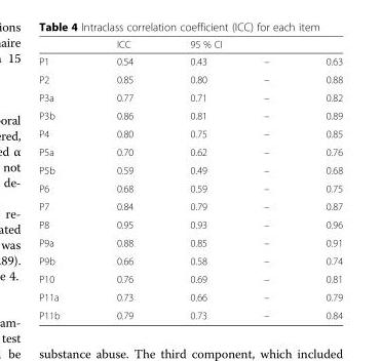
<table><thead><tr><td rowspan="2">P1</td><td rowspan="2">ICC 0.54</td><td colspan="3">95 % CI</td></tr><tr><td>0.43</td><td>–</td><td>0.63</td></tr></thead><tbody><tr><td>P2</td><td>0.85</td><td>0.80</td><td>–</td><td>0.88</td></tr><tr><td>P3a</td><td>0.77</td><td>0.71</td><td>–</td><td>0.82</td></tr><tr><td>P3b</td><td>0.86</td><td>0.81</td><td>–</td><td>0.89</td></tr><tr><td>P4</td><td>0.80</td><td>0.75</td><td>–</td><td>0.85</td></tr><tr><td>P5a</td><td>0.70</td><td>0.62</td><td>–</td><td>0.76</td></tr><tr><td>P5b</td><td>0.59</td><td>0.49</td><td>–</td><td>0.68</td></tr><tr><td>P6</td><td>0.68</td><td>0.59</td><td>–</td><td>0.75</td></tr><tr><td>P7</td><td>0.84</td><td>0.79</td><td>–</td><td>0.87</td></tr><tr><td>P8</td><td>0.95</td><td>0.93</td><td>–</td><td>0.96</td></tr><tr><td>P9a</td><td>0.88</td><td>0.85</td><td>–</td><td>0.91</td></tr><tr><td>P9b</td><td>0.66</td><td>0.58</td><td>–</td><td>0.74</td></tr><tr><td>P10</td><td>0.76</td><td>0.69</td><td>–</td><td>0.81</td></tr><tr><td>P11a</td><td>0.73</td><td>0.66</td><td>–</td><td>0.79</td></tr><tr><td>P11b</td><td>0.79</td><td>0.73</td><td>–</td><td>0.84</td></tr></tbody></table>